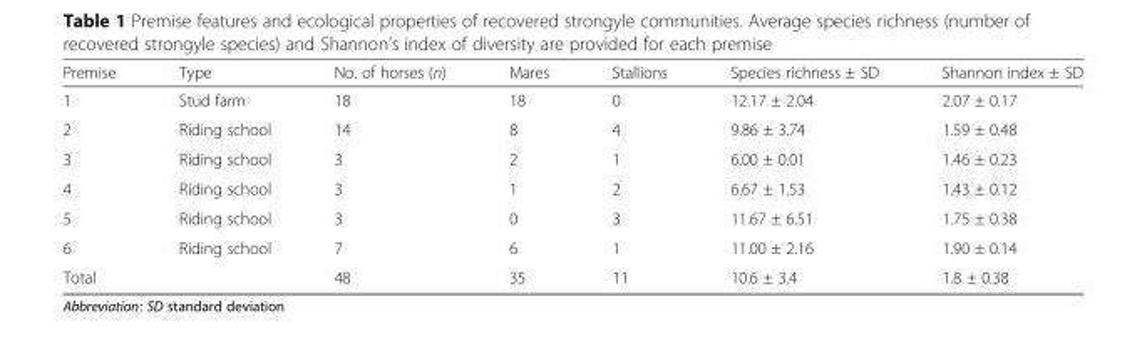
<table><thead><tr><td>Premise</td><td>Type</td><td>No. of horses (n)</td><td>Mares</td><td>Stallions</td><td>Species richness ± SD</td><td>Shannon index ± SD</td></tr></thead><tbody><tr><td>1</td><td>Stud farm</td><td>18</td><td>18</td><td>0</td><td>12.17 ± 2.04</td><td>2.07 ± 0.17</td></tr><tr><td>2</td><td>Riding school</td><td>14</td><td>8</td><td>4</td><td>9.86 ± 3.74</td><td>1.59 ± 0.48</td></tr><tr><td>3</td><td>Riding school</td><td>3</td><td>2</td><td>1</td><td>6.00 ± 0.01</td><td>1.46 ± 0.23</td></tr><tr><td>4</td><td>Riding school</td><td>3</td><td>1</td><td>2</td><td>6.67 ± 1.53</td><td>1.43 ± 0.12</td></tr><tr><td>5</td><td>Riding school</td><td>3</td><td>0</td><td>3</td><td>11.67 ± 6.51</td><td>1.75 ± 0.38</td></tr><tr><td>6</td><td>Riding school</td><td>7</td><td>6</td><td>1</td><td>11.00 ± 2.16</td><td>1.90 ± 0.14</td></tr><tr><td colspan="2">Total</td><td>48</td><td>35</td><td>11</td><td>10.6 ± 3.4</td><td>1.8 ± 0.38</td></tr></tbody></table>